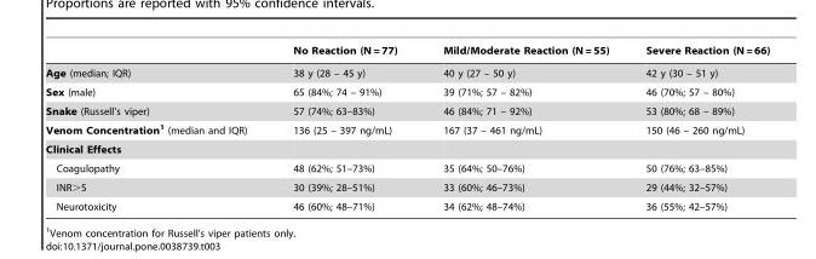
<table><thead><tr><td></td><td>No Reaction (N = 77)</td><td>Mild/Moderate Reaction (N = 55)</td><td>Severe Reaction (N = 66)</td></tr></thead><tbody><tr><td>Age (median; IQR)</td><td>38 y (28 – 45 y)</td><td>40 y (27 – 50 y)</td><td>42 y (30 – 51 y)</td></tr><tr><td>Sex (male)</td><td>65 (84%; 74 – 91%)</td><td>39 (71%; 57 – 82%)</td><td>46 (70%; 57 – 80%)</td></tr><tr><td>Snake (Russell’s viper)</td><td>57 (74%; 63–83%)</td><td>46 (84%; 71 – 92%)</td><td>53 (80%; 68 – 89%)</td></tr><tr><td>Venom Concentration1 (median and IQR)</td><td>136 (25 – 397 ng/mL)</td><td>167 (37 – 461 ng/mL)</td><td>150 (46 – 260 ng/mL)</td></tr><tr><td colspan="4">Clinical Effects</td></tr><tr><td>Coagulopathy</td><td>48 (62%; 51–73%)</td><td>35 (64%; 50–76%)</td><td>50 (76%; 63–85%)</td></tr><tr><td>INR&gt;5</td><td>30 (39%; 28–51%)</td><td>33 (60%; 46–73%)</td><td>29 (44%; 32–57%)</td></tr><tr><td>Neurotoxicity</td><td>46 (60%; 48–71%)</td><td>34 (62%; 48–74%)</td><td>36 (55%; 42–57%)</td></tr></tbody></table>